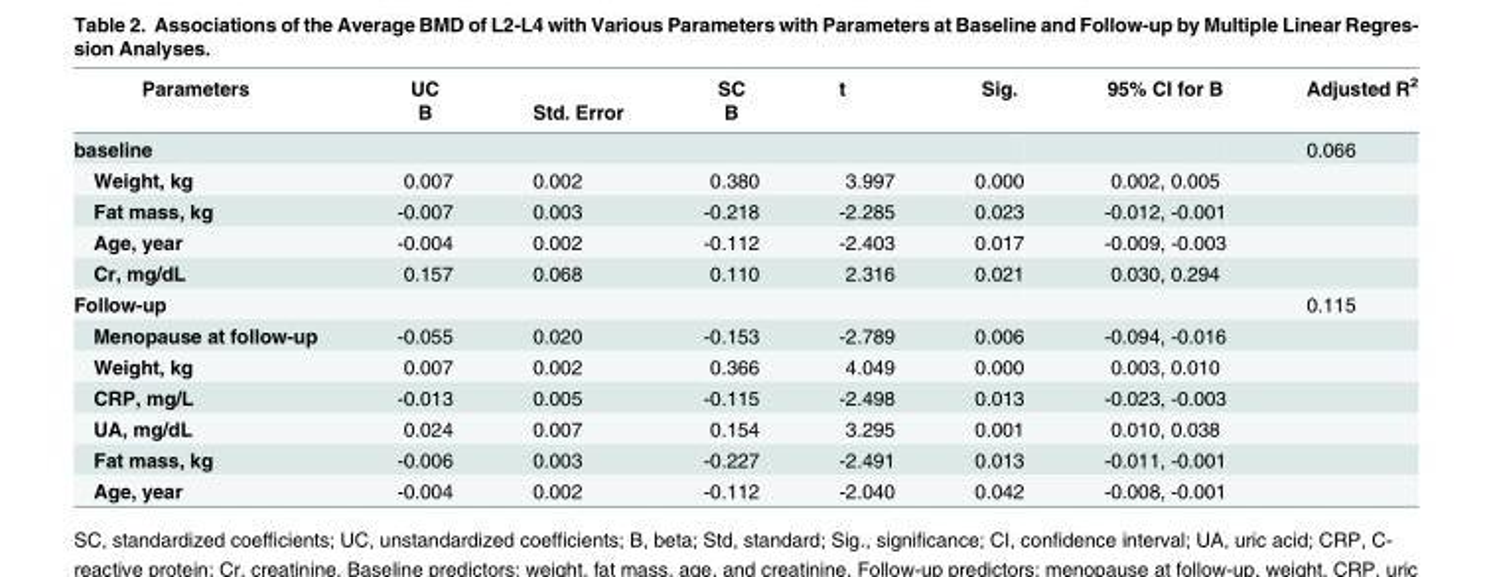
<table><thead><tr><td rowspan="2">Parameters</td><td rowspan="2">UC B</td><td rowspan="2">Std. Error</td><td rowspan="2">SC B</td><td rowspan="2">t</td><td rowspan="2">Sig.</td><td rowspan="2">95% CI for B</td><td rowspan="2">Adjusted R<sup>2</sup></td></tr><tr></tr></thead><tbody><tr><td>baseline</td><td></td><td></td><td></td><td></td><td></td><td></td><td>0.066</td></tr><tr><td>Weight, kg</td><td>0.007</td><td>0.002</td><td>0.380</td><td>3.997</td><td>0.000</td><td>0.002, 0.005</td><td></td></tr><tr><td>Fat mass, kg</td><td>-0.007</td><td>0.003</td><td>-0.218</td><td>-2.285</td><td>0.023</td><td>-0.012, -0.001</td><td></td></tr><tr><td>Age, year</td><td>-0.004</td><td>0.002</td><td>-0.112</td><td>-2.403</td><td>0.017</td><td>-0.009, -0.003</td><td></td></tr><tr><td>Cr, mg/dL</td><td>0.157</td><td>0.068</td><td>0.110</td><td>2.316</td><td>0.021</td><td>0.030, 0.294</td><td></td></tr><tr><td>Follow-up</td><td></td><td></td><td></td><td></td><td></td><td></td><td>0.115</td></tr><tr><td>Menopause at follow-up</td><td>-0.055</td><td>0.020</td><td>-0.153</td><td>-2.789</td><td>0.006</td><td>-0.094, -0.016</td><td></td></tr><tr><td>Weight, kg</td><td>0.007</td><td>0.002</td><td>0.366</td><td>4.049</td><td>0.000</td><td>0.003, 0.010</td><td></td></tr><tr><td>CRP, mg/L</td><td>-0.013</td><td>0.005</td><td>-0.115</td><td>-2.498</td><td>0.013</td><td>-0.023, -0.003</td><td></td></tr><tr><td>UA, mg/dL</td><td>0.024</td><td>0.007</td><td>0.154</td><td>3.295</td><td>0.001</td><td>0.010, 0.038</td><td></td></tr><tr><td>Fat mass, kg</td><td>-0.006</td><td>0.003</td><td>-0.227</td><td>-2.491</td><td>0.013</td><td>-0.011, -0.001</td><td></td></tr><tr><td>Age, year</td><td>-0.004</td><td>0.002</td><td>-0.112</td><td>-2.040</td><td>0.042</td><td>-0.008, -0.001</td><td></td></tr></tbody></table>